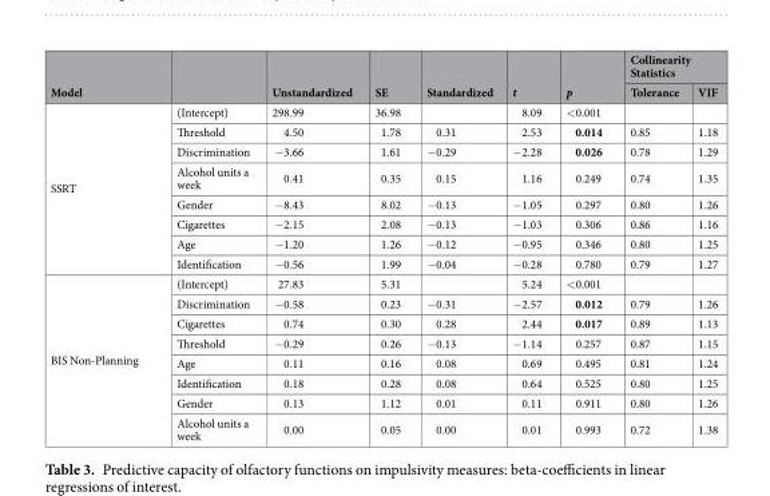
<table><thead><tr><td rowspan="2">Model</td><td rowspan="2"></td><td rowspan="2">Unstandardized</td><td rowspan="2">SE</td><td rowspan="2">Standardized</td><td rowspan="2">t</td><td rowspan="2">p</td><td colspan="2">Collinearity Statistics</td></tr><tr><td>Tolerance</td><td>VIF</td></tr></thead><tbody><tr><td rowspan="8">SSRT</td><td>(Intercept)</td><td>298.99</td><td>36.98</td><td></td><td>8.09</td><td>&lt;0.001</td><td></td><td></td></tr><tr><td>Threshold</td><td>4.50</td><td>1.78</td><td>0.31</td><td>2.53</td><td>0.014</td><td>0.85</td><td>1.18</td></tr><tr><td>Discrimination</td><td>−3.66</td><td>1.61</td><td>−0.29</td><td>−2.28</td><td>0.026</td><td>0.78</td><td>1.29</td></tr><tr><td>Alcohol units a week</td><td>0.41</td><td>0.35</td><td>0.15</td><td>1.16</td><td>0.249</td><td>0.74</td><td>1.35</td></tr><tr><td>Gender</td><td>−8.43</td><td>8.02</td><td>−0.13</td><td>−1.05</td><td>0.297</td><td>0.80</td><td>1.26</td></tr><tr><td>Cigarettes</td><td>−2.15</td><td>2.08</td><td>−0.13</td><td>−1.03</td><td>0.306</td><td>0.86</td><td>1.16</td></tr><tr><td>Age</td><td>−1.20</td><td>1.26</td><td>−0.12</td><td>−0.95</td><td>0.346</td><td>0.80</td><td>1.25</td></tr><tr><td>Identification</td><td>−0.56</td><td>1.99</td><td>−0.04</td><td>−0.28</td><td>0.780</td><td>0.79</td><td>1.27</td></tr><tr><td rowspan="8">BIS Non-Planning</td><td>(Intercept)</td><td>27.83</td><td>5.31</td><td></td><td>5.24</td><td>&lt;0.001</td><td></td><td></td></tr><tr><td>Discrimination</td><td>−0.58</td><td>0.23</td><td>−0.31</td><td>−2.57</td><td>0.012</td><td>0.79</td><td>1.26</td></tr><tr><td>Cigarettes</td><td>0.74</td><td>0.30</td><td>0.28</td><td>2.44</td><td>0.017</td><td>0.89</td><td>1.13</td></tr><tr><td>Threshold</td><td>−0.29</td><td>0.26</td><td>−0.13</td><td>−1.14</td><td>0.257</td><td>0.87</td><td>1.15</td></tr><tr><td>Age</td><td>0.11</td><td>0.16</td><td>0.08</td><td>0.69</td><td>0.495</td><td>0.81</td><td>1.24</td></tr><tr><td>Identification</td><td>0.18</td><td>0.28</td><td>0.08</td><td>0.64</td><td>0.525</td><td>0.80</td><td>1.25</td></tr><tr><td>Gender</td><td>0.13</td><td>1.12</td><td>0.01</td><td>0.11</td><td>0.911</td><td>0.80</td><td>1.26</td></tr><tr><td>Alcohol units a week</td><td>0.00</td><td>0.05</td><td>0.00</td><td>0.01</td><td>0.993</td><td>0.72</td><td>1.38</td></tr></tbody></table>